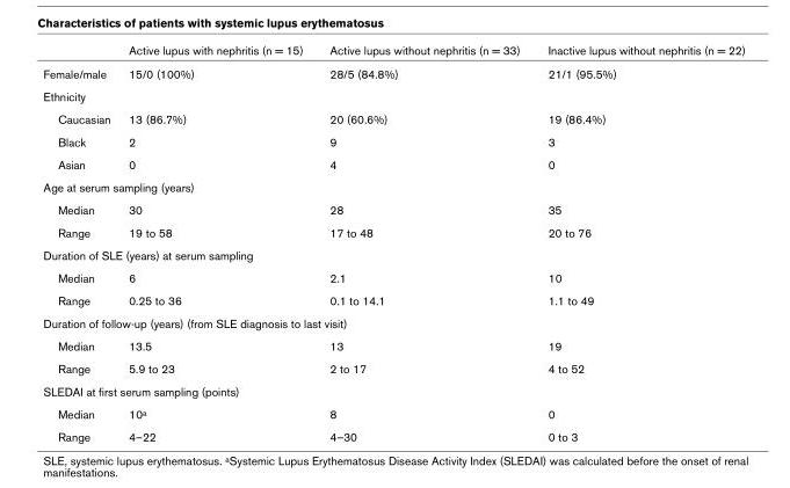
<table><thead><tr><td></td><td>Active lupus with nephritis (n = 15)</td><td>Active lupus without nephritis (n = 33)</td><td>Inactive lupus without nephritis (n = 22)</td></tr></thead><tbody><tr><td>Female/male</td><td>15/0 (100%)</td><td>28/5 (84.8%)</td><td>21/1 (95.5%)</td></tr><tr><td colspan="4">Ethnicity</td></tr><tr><td>Caucasian</td><td>13 (86.7%)</td><td>20 (60.6%)</td><td>19 (86.4%)</td></tr><tr><td>Black</td><td>2</td><td>9</td><td>3</td></tr><tr><td>Asian</td><td>0</td><td>4</td><td>0</td></tr><tr><td colspan="4">Age at serum sampling (years)</td></tr><tr><td>Median</td><td>30</td><td>28</td><td>35</td></tr><tr><td>Range</td><td>19 to 58</td><td>17 to 48</td><td>20 to 76</td></tr><tr><td colspan="4">Duration of SLE (years) at serum sampling</td></tr><tr><td>Median</td><td>6</td><td>2.1</td><td>10</td></tr><tr><td>Range</td><td>0.25 to 36</td><td>0.1 to 14.1</td><td>1.1 to 49</td></tr><tr><td colspan="4">Duration of follow-up (years) (from SLE diagnosis to last visit)</td></tr><tr><td>Median</td><td>13.5</td><td>13</td><td>19</td></tr><tr><td>Range</td><td>5.9 to 23</td><td>2 to 17</td><td>4 to 52</td></tr><tr><td colspan="4">SLEDAI at first serum sampling (points)</td></tr><tr><td>Median</td><td>10<sup>a</sup></td><td>8</td><td>0</td></tr><tr><td>Range</td><td>4–22</td><td>4–30</td><td>0 to 3</td></tr></tbody></table>